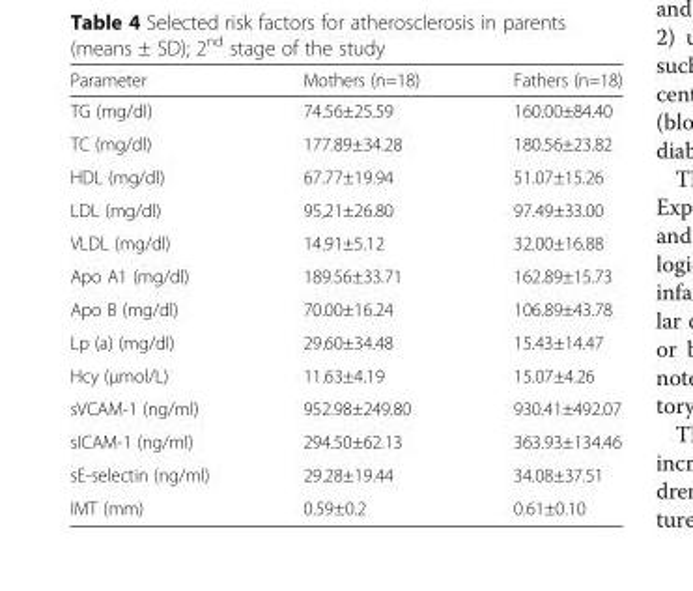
<table><thead><tr><td>Parameter</td><td>Mothers (n=18)</td><td>Fathers (n=18)</td></tr></thead><tbody><tr><td>TG (mg/dl)</td><td>74.56±25.59</td><td>160.00±84.40</td></tr><tr><td>TC (mg/dl)</td><td>177.89±34.28</td><td>180.56±23.82</td></tr><tr><td>HDL (mg/dl)</td><td>67.77±19.94</td><td>51.07±15.26</td></tr><tr><td>LDL (mg/dl)</td><td>95,21±26.80</td><td>97.49±33.00</td></tr><tr><td>VLDL (mg/dl)</td><td>14.91±5.12</td><td>32.00±16.88</td></tr><tr><td>Apo A1 (mg/dl)</td><td>189.56±33.71</td><td>162.89±15.73</td></tr><tr><td>Apo B (mg/dl)</td><td>70.00±16.24</td><td>106.89±43.78</td></tr><tr><td>Lp (a) (mg/dl)</td><td>29.60±34.48</td><td>15.43±14.47</td></tr><tr><td>Hcy (μmol/L)</td><td>11.63±4.19</td><td>15.07±4.26</td></tr><tr><td>sVCAM-1 (ng/ml)</td><td>952.98±249.80</td><td>930.41±492.07</td></tr><tr><td>sICAM-1 (ng/ml)</td><td>294.50±62.13</td><td>363.93±134.46</td></tr><tr><td>sE-selectin (ng/ml)</td><td>29.28±19.44</td><td>34.08±37.51</td></tr><tr><td>IMT (mm)</td><td>0.59±0.2</td><td>0.61±0.10</td></tr></tbody></table>